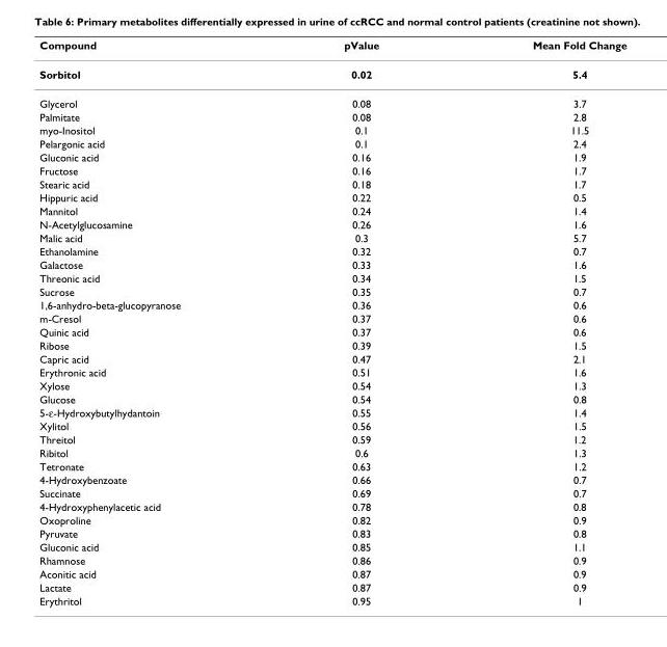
<table><thead><tr><td>Compound</td><td>pValue</td><td>Mean Fold Change</td></tr></thead><tbody><tr><td>Sorbitol</td><td>0.02</td><td>5.4</td></tr><tr><td>Glycerol</td><td>0.08</td><td>3.7</td></tr><tr><td>Palmitate</td><td>0.08</td><td>2.8</td></tr><tr><td>myo-Inositol</td><td>0.1</td><td>11.5</td></tr><tr><td>Pelargonic acid</td><td>0.1</td><td>2.4</td></tr><tr><td>Gluconic acid</td><td>0.16</td><td>1.9</td></tr><tr><td>Fructose</td><td>0.16</td><td>1.7</td></tr><tr><td>Stearic acid</td><td>0.18</td><td>1.7</td></tr><tr><td>Hippuric acid</td><td>0.22</td><td>0.5</td></tr><tr><td>Mannitol</td><td>0.24</td><td>1.4</td></tr><tr><td>N-Acetylglucosamine</td><td>0.26</td><td>1.6</td></tr><tr><td>Malic acid</td><td>0.3</td><td>5.7</td></tr><tr><td>Ethanolamine</td><td>0.32</td><td>0.7</td></tr><tr><td>Galactose</td><td>0.33</td><td>1.6</td></tr><tr><td>Threonic acid</td><td>0.34</td><td>1.5</td></tr><tr><td>Sucrose</td><td>0.35</td><td>0.7</td></tr><tr><td>1,6-anhydro-beta-glucopyranose</td><td>0.36</td><td>0.6</td></tr><tr><td>m-Cresol</td><td>0.37</td><td>0.6</td></tr><tr><td>Quinic acid</td><td>0.37</td><td>0.6</td></tr><tr><td>Ribose</td><td>0.39</td><td>1.5</td></tr><tr><td>Capric acid</td><td>0.47</td><td>2.1</td></tr><tr><td>Erythronic acid</td><td>0.51</td><td>1.6</td></tr><tr><td>Xylose</td><td>0.54</td><td>1.3</td></tr><tr><td>Glucose</td><td>0.54</td><td>0.8</td></tr><tr><td>5-ε-Hydroxybutylhydantoin</td><td>0.55</td><td>1.4</td></tr><tr><td>Xylitol</td><td>0.56</td><td>1.5</td></tr><tr><td>Threitol</td><td>0.59</td><td>1.2</td></tr><tr><td>Ribitol</td><td>0.6</td><td>1.3</td></tr><tr><td>Tetronate</td><td>0.63</td><td>1.2</td></tr><tr><td>4-Hydroxybenzoate</td><td>0.66</td><td>0.7</td></tr><tr><td>Succinate</td><td>0.69</td><td>0.7</td></tr><tr><td>4-Hydroxyphenylacetic acid</td><td>0.78</td><td>0.8</td></tr><tr><td>Oxoproline</td><td>0.82</td><td>0.9</td></tr><tr><td>Pyruvate</td><td>0.83</td><td>0.8</td></tr><tr><td>Gluconic acid</td><td>0.85</td><td>1.1</td></tr><tr><td>Rhamnose</td><td>0.86</td><td>0.9</td></tr><tr><td>Aconitic acid</td><td>0.87</td><td>0.9</td></tr><tr><td>Lactate</td><td>0.87</td><td>0.9</td></tr><tr><td>Erythritol</td><td>0.95</td><td>1</td></tr></tbody></table>